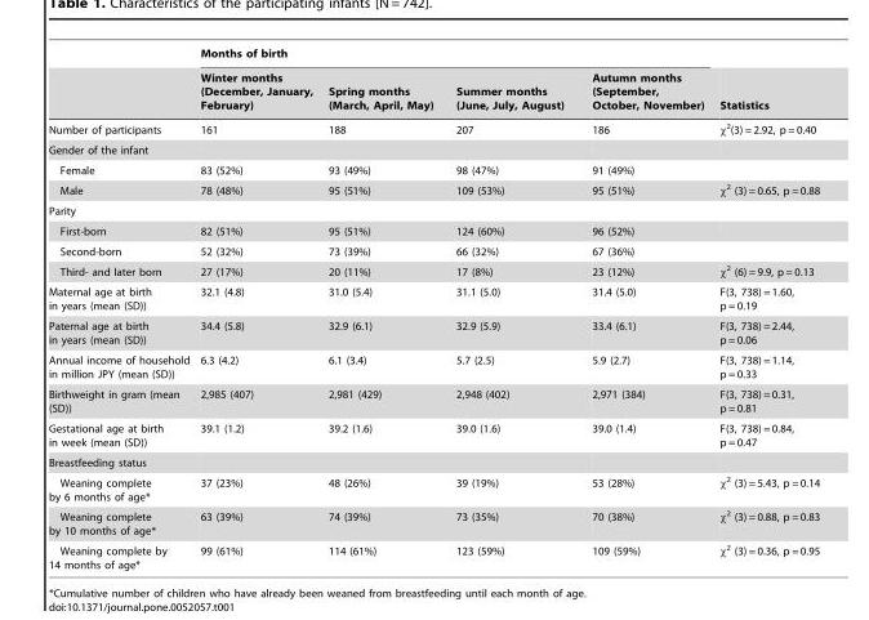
<table><thead><tr><td rowspan="2"></td><td colspan="4">Months of birth</td><td rowspan="2">Statistics</td></tr><tr><td>Winter months (December, January, February)</td><td>Spring months (March, April, May)</td><td>Summer months (June, July, August)</td><td>Autumn months (September, October, November)</td></tr></thead><tbody><tr><td>Number of participants</td><td>161</td><td>188</td><td>207</td><td>186</td><td>χ<sup>2</sup>(3) = 2.92, p = 0.40</td></tr><tr><td colspan="6">Gender of the infant</td></tr><tr><td>Female</td><td>83 (52%)</td><td>93 (49%)</td><td>98 (47%)</td><td>91 (49%)</td><td></td></tr><tr><td>Male</td><td>78 (48%)</td><td>95 (51%)</td><td>109 (53%)</td><td>95 (51%)</td><td>χ<sup>2</sup> (3) = 0.65, p = 0.88</td></tr><tr><td colspan="6">Parity</td></tr><tr><td>First-born</td><td>82 (51%)</td><td>95 (51%)</td><td>124 (60%)</td><td>96 (52%)</td><td></td></tr><tr><td>Second-born</td><td>52 (32%)</td><td>73 (39%)</td><td>66 (32%)</td><td>67 (36%)</td><td></td></tr><tr><td>Third- and later born</td><td>27 (17%)</td><td>20 (11%)</td><td>17 (8%)</td><td>23 (12%)</td><td>χ<sup>2</sup> (6) = 9.9, p = 0.13</td></tr><tr><td>Maternal age at birth in years (mean (SD))</td><td>32.1 (4.8)</td><td>31.0 (5.4)</td><td>31.1 (5.0)</td><td>31.4 (5.0)</td><td>F(3, 738) = 1.60, p = 0.19</td></tr><tr><td>Paternal age at birth in years (mean (SD))</td><td>34.4 (5.8)</td><td>32.9 (6.1)</td><td>32.9 (5.9)</td><td>33.4 (6.1)</td><td>F(3, 738) = 2.44, p = 0.06</td></tr><tr><td>Annual income of household in million JPY (mean (SD))</td><td>6.3 (4.2)</td><td>6.1 (3.4)</td><td>5.7 (2.5)</td><td>5.9 (2.7)</td><td>F(3, 738) = 1.14, p = 0.33</td></tr><tr><td>Birthweight in gram (mean (SD))</td><td>2,985 (407)</td><td>2,981 (429)</td><td>2,948 (402)</td><td>2,971 (384)</td><td>F(3, 738) = 0.31, p = 0.81</td></tr><tr><td>Gestational age at birth in week (mean (SD))</td><td>39.1 (1.2)</td><td>39.2 (1.6)</td><td>39.0 (1.6)</td><td>39.0 (1.4)</td><td>F(3, 738) = 0.84, p = 0.47</td></tr><tr><td colspan="6">Breastfeeding status</td></tr><tr><td>Weaning complete by 6 months of age*</td><td>37 (23%)</td><td>48 (26%)</td><td>39 (19%)</td><td>53 (28%)</td><td>χ<sup>2</sup> (3) = 5.43, p = 0.14</td></tr><tr><td>Weaning complete by 10 months of age*</td><td>63 (39%)</td><td>74 (39%)</td><td>73 (35%)</td><td>70 (38%)</td><td>χ<sup>2</sup> (3) = 0.88, p = 0.83</td></tr><tr><td>Weaning complete by 14 months of age*</td><td>99 (61%)</td><td>114 (61%)</td><td>123 (59%)</td><td>109 (59%)</td><td>χ<sup>2</sup> (3) = 0.36, p = 0.95</td></tr></tbody></table>